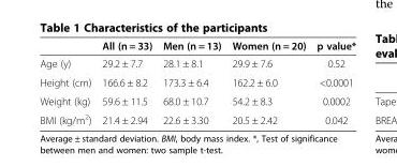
<table><thead><tr><td></td><td>All (n = 33)</td><td>Men (n = 13)</td><td>Women (n = 20)</td><td>p value*</td></tr></thead><tbody><tr><td>Age (y)</td><td>29.2 ± 7.7</td><td>28.1 ± 8.1</td><td>29.9 ± 7.6</td><td>0.52</td></tr><tr><td>Height (cm)</td><td>166.6 ± 8.2</td><td>173.3 ± 6.4</td><td>162.2 ± 6.0</td><td>&lt;0.0001</td></tr><tr><td>Weight (kg)</td><td>59.6 ± 11.5</td><td>68.0 ± 10.7</td><td>54.2 ± 8.3</td><td>0.0002</td></tr><tr><td>BMI (kg/m<sup>2</sup>)</td><td>21.4 ± 2.94</td><td>22.6 ± 3.30</td><td>20.5 ± 2.42</td><td>0.042</td></tr></tbody></table>